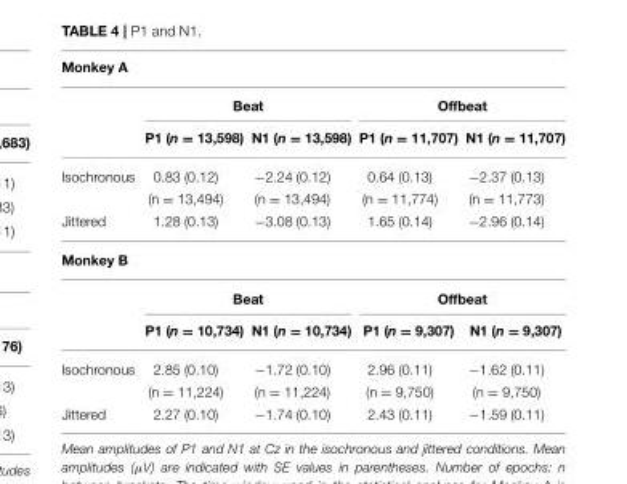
<table><thead><tr><td colspan="5">Monkey A</td></tr><tr><td rowspan="2"></td><td colspan="2">Beat</td><td colspan="2">Offbeat</td></tr><tr><td>P1 (n = 13,598)</td><td>N1 (n = 13,598)</td><td>P1 (n = 11,707)</td><td>N1 (n = 11,707)</td></tr></thead><tbody><tr><td rowspan="2">Isochronous</td><td>0.83 (0.12)</td><td>−2.24 (0.12)</td><td>0.64 (0.13)</td><td>−2.37 (0.13)</td></tr><tr><td>(n = 13,494)</td><td>(n = 13,494)</td><td>(n = 11,774)</td><td>(n = 11,773)</td></tr><tr><td>Jittered</td><td>1.28 (0.13)</td><td>−3.08 (0.13)</td><td>1.65 (0.14)</td><td>−2.96 (0.14)</td></tr><tr><td colspan="5">Monkey B</td></tr><tr><td></td><td colspan="2">Beat</td><td colspan="2">Offbeat</td></tr><tr><td></td><td>P1 (n = 10,734)</td><td>N1 (n = 10,734)</td><td>P1 (n = 9,307)</td><td>N1 (n = 9,307)</td></tr><tr><td rowspan="2">Isochronous</td><td>2.85 (0.10)</td><td>−1.72 (0.10)</td><td>2.96 (0.11)</td><td>−1.62 (0.11)</td></tr><tr><td>(n = 11,224)</td><td>(n = 11,224)</td><td>(n = 9,750)</td><td>(n = 9,750)</td></tr><tr><td>Jittered</td><td>2.27 (0.10)</td><td>−1.74 (0.10)</td><td>2.43 (0.11)</td><td>−1.59 (0.11)</td></tr></tbody></table>